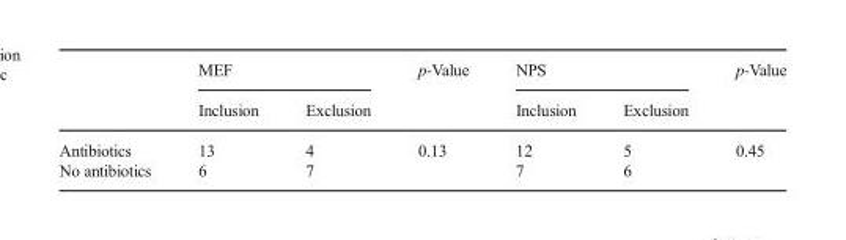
<table><thead><tr><td rowspan="2"></td><td colspan="2">MEF</td><td rowspan="2">p-Value</td><td colspan="2">NPS</td><td rowspan="2">p-Value</td></tr><tr><td>Inclusion</td><td>Exclusion</td><td>Inclusion</td><td>Exclusion</td></tr></thead><tbody><tr><td>Antibiotics</td><td>13</td><td>4</td><td rowspan="2">0.13</td><td>12</td><td>5</td><td rowspan="2">0.45</td></tr><tr><td>No antibiotics</td><td>6</td><td>7</td><td>7</td><td>6</td></tr></tbody></table>